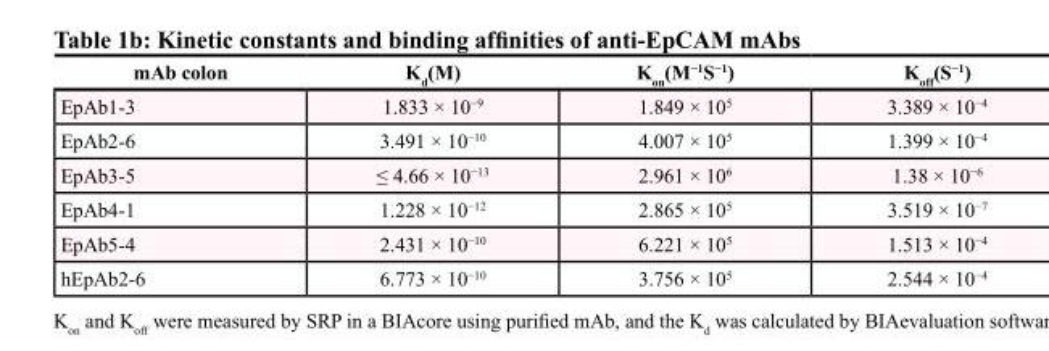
<table><thead><tr><td>mAb colon</td><td>K<sub>d</sub>(M)</td><td>K<sub>on</sub>(M<sup>−1</sup>S<sup>−1</sup>)</td><td>K<sub>off</sub>(S<sup>−1</sup>)</td></tr></thead><tbody><tr><td>EpAb1-3</td><td>1.833 × 10<sup>−9</sup></td><td>1.849 × 10<sup>5</sup></td><td>3.389 × 10<sup>−4</sup></td></tr><tr><td>EpAb2-6</td><td>3.491 × 10<sup>−10</sup></td><td>4.007 × 10<sup>5</sup></td><td>1.399 × 10<sup>−4</sup></td></tr><tr><td>EpAb3-5</td><td>≤ 4.66 × 10<sup>−13</sup></td><td>2.961 × 10<sup>6</sup></td><td>1.38 × 10<sup>−6</sup></td></tr><tr><td>EpAb4-1</td><td>1.228 × 10<sup>−12</sup></td><td>2.865 × 10<sup>5</sup></td><td>3.519 × 10<sup>−7</sup></td></tr><tr><td>EpAb5-4</td><td>2.431 × 10<sup>−10</sup></td><td>6.221 × 10<sup>5</sup></td><td>1.513 × 10<sup>−4</sup></td></tr><tr><td>hEpAb2-6</td><td>6.773 × 10<sup>−10</sup></td><td>3.756 × 10<sup>5</sup></td><td>2.544 × 10<sup>−4</sup></td></tr></tbody></table>